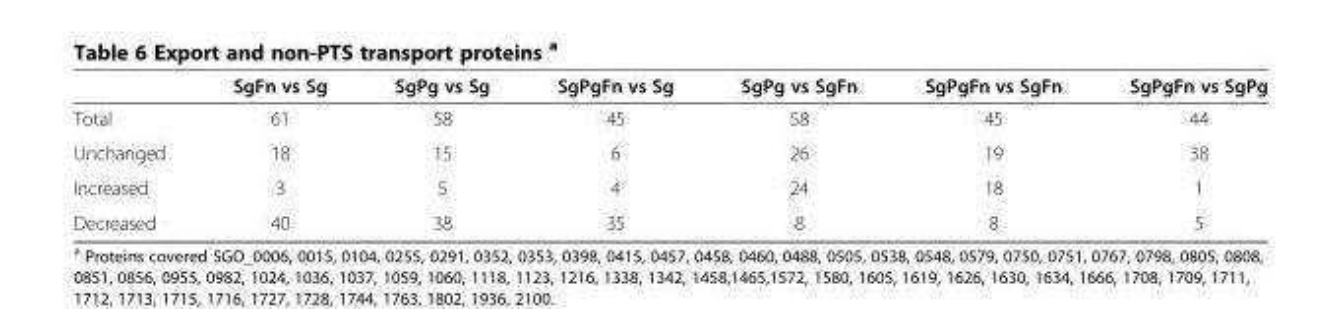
<table><thead><tr><td></td><td>SgFn vs Sg</td><td>SgPg vs Sg</td><td>SgPgFn vs Sg</td><td>SgPg vs SgFn</td><td>SgPgFn vs SgFn</td><td>SgPgFn vs SgPg</td></tr></thead><tbody><tr><td>Total</td><td>61</td><td>58</td><td>45</td><td>58</td><td>45</td><td>44</td></tr><tr><td>Unchanged</td><td>18</td><td>15</td><td>6</td><td>26</td><td>19</td><td>38</td></tr><tr><td>Increased</td><td>3</td><td>5</td><td>4</td><td>24</td><td>18</td><td>1</td></tr><tr><td>Decreased</td><td>40</td><td>38</td><td>35</td><td>8</td><td>8</td><td>5</td></tr></tbody></table>